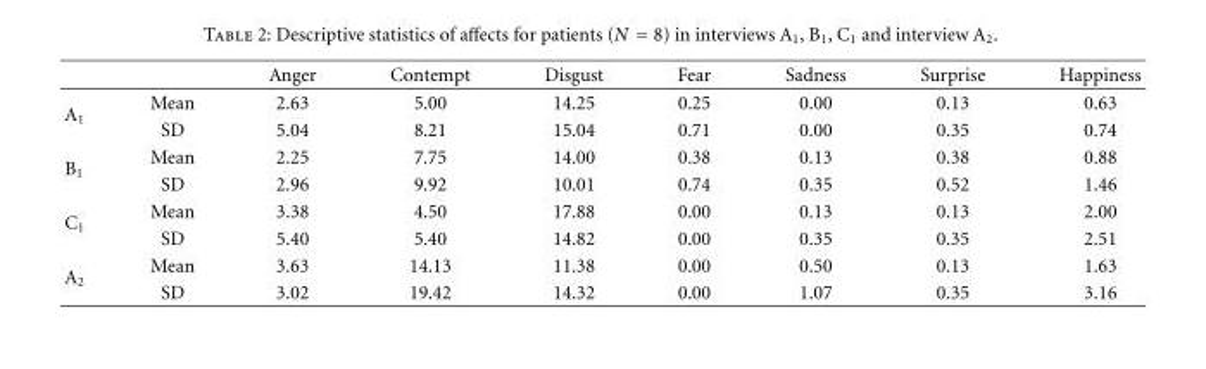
<table><thead><tr><td></td><td></td><td>Anger</td><td>Contempt</td><td>Disgust</td><td>Fear</td><td>Sadness</td><td>Surprise</td><td>Happiness</td></tr></thead><tbody><tr><td rowspan="2">A<sub>1</sub></td><td>Mean</td><td>2.63</td><td>5.00</td><td>14.25</td><td>0.25</td><td>0.00</td><td>0.13</td><td>0.63</td></tr><tr><td>SD</td><td>5.04</td><td>8.21</td><td>15.04</td><td>0.71</td><td>0.00</td><td>0.35</td><td>0.74</td></tr><tr><td rowspan="2">B<sub>1</sub></td><td>Mean</td><td>2.25</td><td>7.75</td><td>14.00</td><td>0.38</td><td>0.13</td><td>0.38</td><td>0.88</td></tr><tr><td>SD</td><td>2.96</td><td>9.92</td><td>10.01</td><td>0.74</td><td>0.35</td><td>0.52</td><td>1.46</td></tr><tr><td rowspan="2">C<sub>1</sub></td><td>Mean</td><td>3.38</td><td>4.50</td><td>17.88</td><td>0.00</td><td>0.13</td><td>0.13</td><td>2.00</td></tr><tr><td>SD</td><td>5.40</td><td>5.40</td><td>14.82</td><td>0.00</td><td>0.35</td><td>0.35</td><td>2.51</td></tr><tr><td rowspan="2">A<sub>2</sub></td><td>Mean</td><td>3.63</td><td>14.13</td><td>11.38</td><td>0.00</td><td>0.50</td><td>0.13</td><td>1.63</td></tr><tr><td>SD</td><td>3.02</td><td>19.42</td><td>14.32</td><td>0.00</td><td>1.07</td><td>0.35</td><td>3.16</td></tr></tbody></table>